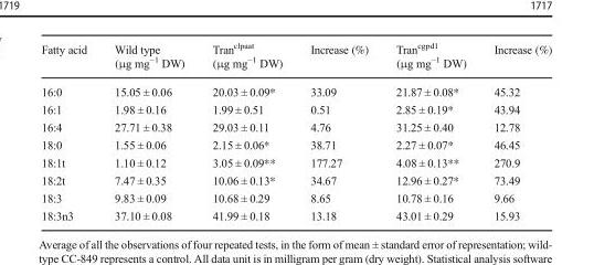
<table><thead><tr><td>Fatty acid</td><td>Wild type (μg mg<sup>−1</sup> DW)</td><td>Tran<sup>clpaat</sup> (μg mg<sup>−1</sup> DW)</td><td>Increase (%)</td><td>Tran<sup>cgpd1</sup> (μg mg<sup>−1</sup> DW)</td><td>Increase (%)</td></tr></thead><tbody><tr><td>16:0</td><td>15.05 ± 0.06</td><td>20.03 ± 0.09*</td><td>33.09</td><td>21.87 ± 0.08*</td><td>45.32</td></tr><tr><td>16:1</td><td>1.98 ± 0.16</td><td>1.99 ± 0.51</td><td>0.51</td><td>2.85 ± 0.19*</td><td>43.94</td></tr><tr><td>16:4</td><td>27.71 ± 0.38</td><td>29.03 ± 0.11</td><td>4.76</td><td>31.25 ± 0.40</td><td>12.78</td></tr><tr><td>18:0</td><td>1.55 ± 0.06</td><td>2.15 ± 0.06*</td><td>38.71</td><td>2.27 ± 0.07*</td><td>46.45</td></tr><tr><td>18:1t</td><td>1.10 ± 0.12</td><td>3.05 ± 0.09**</td><td>177.27</td><td>4.08 ± 0.13**</td><td>270.9</td></tr><tr><td>18:2t</td><td>7.47 ± 0.35</td><td>10.06 ± 0.13*</td><td>34.67</td><td>12.96 ± 0.27*</td><td>73.49</td></tr><tr><td>18:3</td><td>9.83 ± 0.09</td><td>10.68 ± 0.29</td><td>8.65</td><td>10.78 ± 0.16</td><td>9.66</td></tr><tr><td>18:3n3</td><td>37.10 ± 0.08</td><td>41.99 ± 0.18</td><td>13.18</td><td>43.01 ± 0.29</td><td>15.93</td></tr></tbody></table>